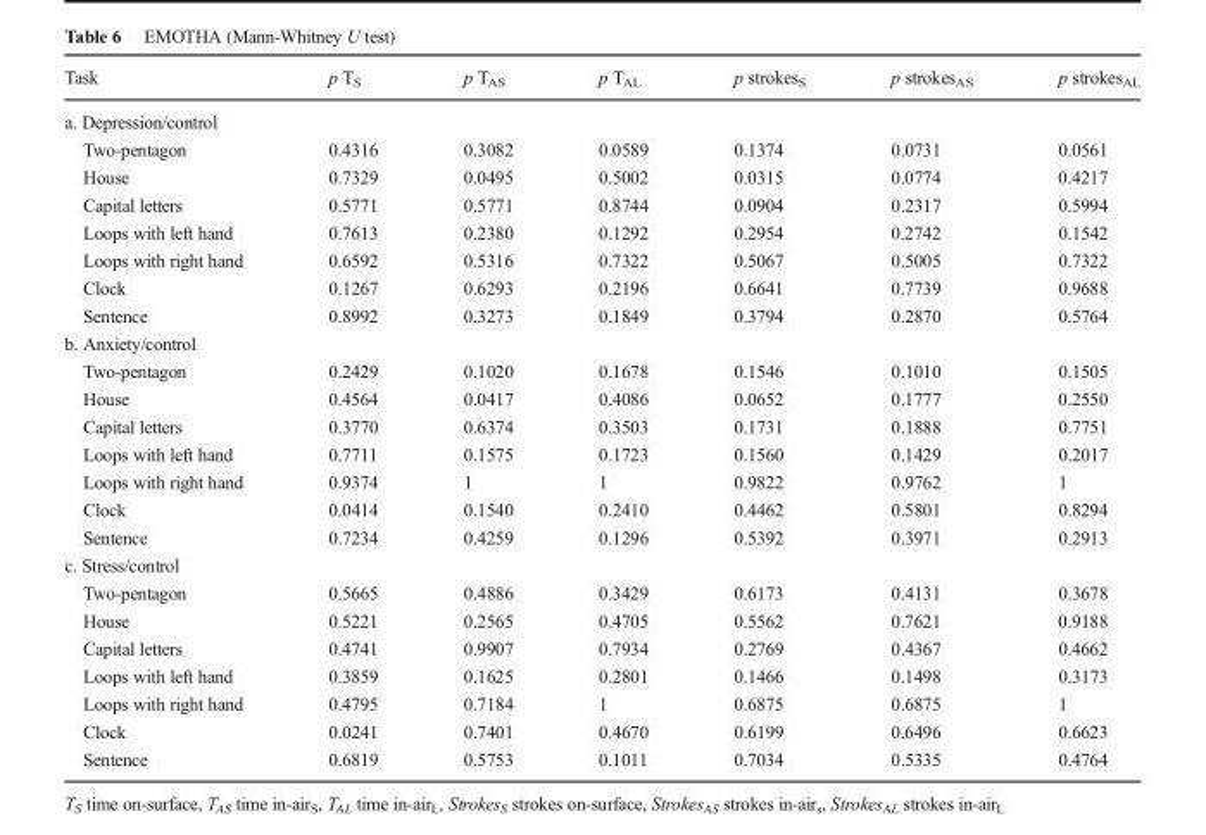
<table><thead><tr><td>Task</td><td>p T<sub>S</sub></td><td>p T<sub>AS</sub></td><td>p T<sub>AL</sub></td><td>p strokes<sub>S</sub></td><td>p strokes<sub>AS</sub></td><td>p strokes<sub>AL</sub></td></tr></thead><tbody><tr><td colspan="7">a. Depression/control</td></tr><tr><td>Two-pentagon</td><td>0.4316</td><td>0.3082</td><td>0.0589</td><td>0.1374</td><td>0.0731</td><td>0.0561</td></tr><tr><td>House</td><td>0.7329</td><td>0.0495</td><td>0.5002</td><td>0.0315</td><td>0.0774</td><td>0.4217</td></tr><tr><td>Capital letters</td><td>0.5771</td><td>0.5771</td><td>0.8744</td><td>0.0904</td><td>0.2317</td><td>0.5994</td></tr><tr><td>Loops with left hand</td><td>0.7613</td><td>0.2380</td><td>0.1292</td><td>0.2954</td><td>0.2742</td><td>0.1542</td></tr><tr><td>Loops with right hand</td><td>0.6592</td><td>0.5316</td><td>0.7322</td><td>0.5067</td><td>0.5005</td><td>0.7322</td></tr><tr><td>Clock</td><td>0.1267</td><td>0.6293</td><td>0.2196</td><td>0.6641</td><td>0.7739</td><td>0.9688</td></tr><tr><td>Sentence</td><td>0.8992</td><td>0.3273</td><td>0.1849</td><td>0.3794</td><td>0.2870</td><td>0.5764</td></tr><tr><td colspan="7">b. Anxiety/control</td></tr><tr><td>Two-pentagon</td><td>0.2429</td><td>0.1020</td><td>0.1678</td><td>0.1546</td><td>0.1010</td><td>0.1505</td></tr><tr><td>House</td><td>0.4564</td><td>0.0417</td><td>0.4086</td><td>0.0652</td><td>0.1777</td><td>0.2550</td></tr><tr><td>Capital letters</td><td>0.3770</td><td>0.6374</td><td>0.3503</td><td>0.1731</td><td>0.1888</td><td>0.7751</td></tr><tr><td>Loops with left hand</td><td>0.7711</td><td>0.1575</td><td>0.1723</td><td>0.1560</td><td>0.1429</td><td>0.2017</td></tr><tr><td>Loops with right hand</td><td>0.9374</td><td>1</td><td>1</td><td>0.9822</td><td>0.9762</td><td>1</td></tr><tr><td>Clock</td><td>0.0414</td><td>0.1540</td><td>0.2410</td><td>0.4462</td><td>0.5801</td><td>0.8294</td></tr><tr><td>Sentence</td><td>0.7234</td><td>0.4259</td><td>0.1296</td><td>0.5392</td><td>0.3971</td><td>0.2913</td></tr><tr><td colspan="7">c. Stress/control</td></tr><tr><td>Two-pentagon</td><td>0.5665</td><td>0.4886</td><td>0.3429</td><td>0.6173</td><td>0.4131</td><td>0.3678</td></tr><tr><td>House</td><td>0.5221</td><td>0.2565</td><td>0.4705</td><td>0.5562</td><td>0.7621</td><td>0.9188</td></tr><tr><td>Capital letters</td><td>0.4741</td><td>0.9907</td><td>0.7934</td><td>0.2769</td><td>0.4367</td><td>0.4662</td></tr><tr><td>Loops with left hand</td><td>0.3859</td><td>0.1625</td><td>0.2801</td><td>0.1466</td><td>0.1498</td><td>0.3173</td></tr><tr><td>Loops with right hand</td><td>0.4795</td><td>0.7184</td><td>1</td><td>0.6875</td><td>0.6875</td><td>1</td></tr><tr><td>Clock</td><td>0.0241</td><td>0.7401</td><td>0.4670</td><td>0.6199</td><td>0.6496</td><td>0.6623</td></tr><tr><td>Sentence</td><td>0.6819</td><td>0.5753</td><td>0.1011</td><td>0.7034</td><td>0.5335</td><td>0.4764</td></tr></tbody></table>